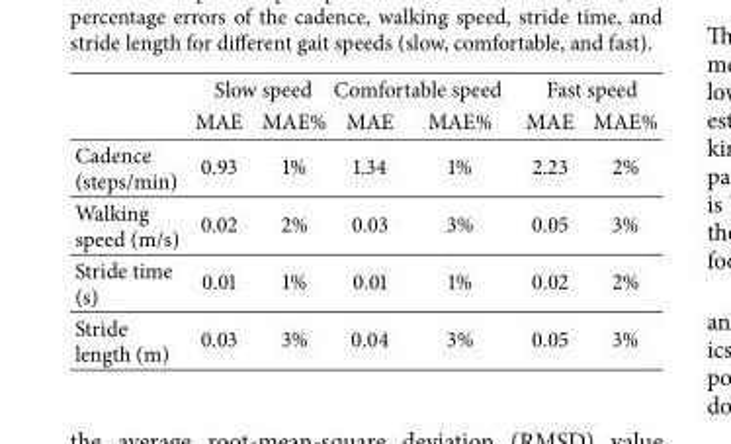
<table><thead><tr><td rowspan="2"></td><td colspan="2">Slow speed</td><td colspan="2">Comfortable speed</td><td colspan="2">Fast speed</td></tr><tr><td>MAE</td><td>MAE%</td><td>MAE</td><td>MAE%</td><td>MAE</td><td>MAE%</td></tr></thead><tbody><tr><td>Cadence (steps/min)</td><td>0.93</td><td>1%</td><td>1.34</td><td>1%</td><td>2.23</td><td>2%</td></tr><tr><td>Walking speed (m/s)</td><td>0.02</td><td>2%</td><td>0.03</td><td>3%</td><td>0.05</td><td>3%</td></tr><tr><td>Stride time (s)</td><td>0.01</td><td>1%</td><td>0.01</td><td>1%</td><td>0.02</td><td>2%</td></tr><tr><td>Stride length (m)</td><td>0.03</td><td>3%</td><td>0.04</td><td>3%</td><td>0.05</td><td>3%</td></tr></tbody></table>